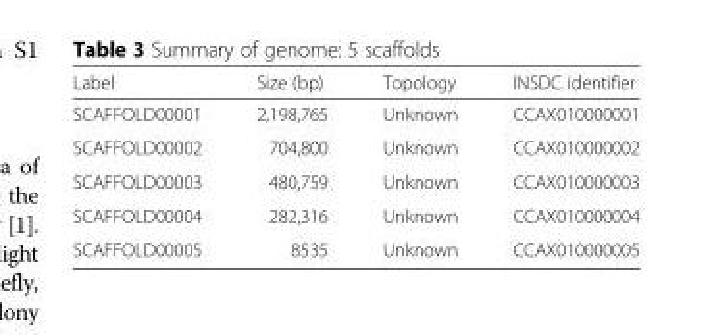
<table><thead><tr><td>Label</td><td>Size (bp)</td><td>Topology</td><td>INSDC identifier</td></tr></thead><tbody><tr><td>SCAFFOLD00001</td><td>2,198,765</td><td>Unknown</td><td>CCAX010000001</td></tr><tr><td>SCAFFOLD00002</td><td>704,800</td><td>Unknown</td><td>CCAX010000002</td></tr><tr><td>SCAFFOLD00003</td><td>480,759</td><td>Unknown</td><td>CCAX010000003</td></tr><tr><td>SCAFFOLD00004</td><td>282,316</td><td>Unknown</td><td>CCAX010000004</td></tr><tr><td>SCAFFOLD00005</td><td>8535</td><td>Unknown</td><td>CCAX010000005</td></tr></tbody></table>